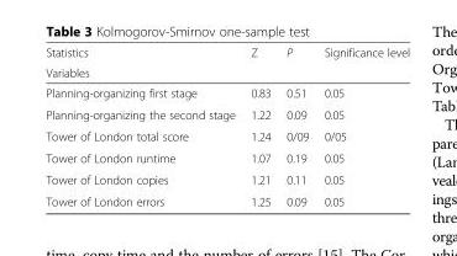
<table><thead><tr><td rowspan="2">Statistics Variables</td><td rowspan="2">Z</td><td rowspan="2">P</td><td rowspan="2">Significance level</td></tr><tr></tr></thead><tbody><tr><td>Planning-organizing first stage</td><td>0.83</td><td>0.51</td><td>0.05</td></tr><tr><td>Planning-organizing the second stage</td><td>1.22</td><td>0.09</td><td>0.05</td></tr><tr><td>Tower of London total score</td><td>1.24</td><td>0/09</td><td>0/05</td></tr><tr><td>Tower of London runtime</td><td>1.07</td><td>0.19</td><td>0.05</td></tr><tr><td>Tower of London copies</td><td>1.21</td><td>0.11</td><td>0.05</td></tr><tr><td>Tower of London errors</td><td>1.25</td><td>0.09</td><td>0.05</td></tr></tbody></table>